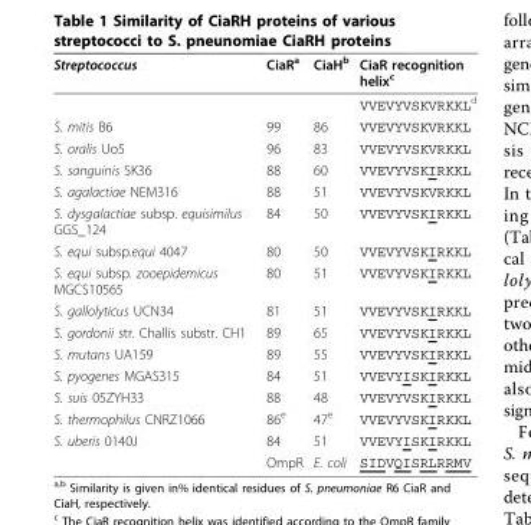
<table><thead><tr><td>Streptococcus</td><td>CiaR<sup>a</sup></td><td>CiaH<sup>b</sup></td><td>CiaR recognition helix<sup>c</sup></td></tr></thead><tbody><tr><td></td><td></td><td></td><td>VVEVYVSKVRKKL<sup>d</sup></td></tr><tr><td>S. mitis B6</td><td>99</td><td>86</td><td>VVEVYVSKVRKKL</td></tr><tr><td>S. oralis Uo5</td><td>96</td><td>83</td><td>VVEVYVSKVRKKL</td></tr><tr><td>S. sanguinis SK36</td><td>88</td><td>60</td><td>VVEVYVSKIRKKL</td></tr><tr><td>S. agalactiae NEM316</td><td>88</td><td>51</td><td>VVEVYVSKVRKKL</td></tr><tr><td>S. dysgalactiae subsp. equisimilus GGS_124</td><td>84</td><td>50</td><td>VVEVYVSKIRKKL</td></tr><tr><td>S. equi subsp.equi 4047</td><td>80</td><td>50</td><td>VVEVYVSKIRKKL</td></tr><tr><td>S. equi subsp. zooepidemicus MGCS10565</td><td>80</td><td>51</td><td>VVEVYVSKIRKKL</td></tr><tr><td>S. gallolyticus UCN34</td><td>81</td><td>51</td><td>VVEVYVSKIRKKL</td></tr><tr><td>S. gordonii str. Challis substr. CH1</td><td>89</td><td>65</td><td>VVEVYVSKIRKKL</td></tr><tr><td>S. mutans UA159</td><td>89</td><td>55</td><td>VVEVYVSKIRKKL</td></tr><tr><td>S. pyogenes MGAS315</td><td>84</td><td>51</td><td>VVEVYISKIRKKL</td></tr><tr><td>S. suis 05ZYH33</td><td>88</td><td>48</td><td>VVEVYVSKIRKKL</td></tr><tr><td>S. thermophilus CNRZ1066</td><td>86<sup>e</sup></td><td>47<sup>e</sup></td><td>VVEVYVSKIRKKL</td></tr><tr><td rowspan="2">S. uberis 0140J</td><td>84</td><td>51</td><td>VVEVYISKIRKKL</td></tr><tr><td>OmpR</td><td>E. coli</td><td>SIDVQISRLRRMV</td></tr></tbody></table>